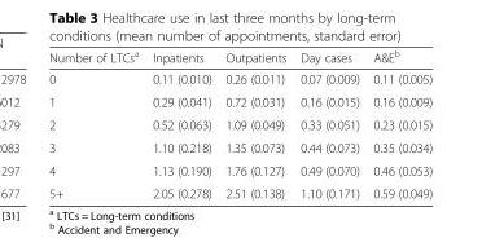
<table><thead><tr><td>Number of LTCs<sup>a</sup></td><td>Inpatients</td><td>Outpatients</td><td>Day cases</td><td>A&amp;E<sup>b</sup></td></tr></thead><tbody><tr><td>0</td><td>0.11 (0.010)</td><td>0.26 (0.011)</td><td>0.07 (0.009)</td><td>0.11 (0.005)</td></tr><tr><td>1</td><td>0.29 (0.041)</td><td>0.72 (0.031)</td><td>0.16 (0.015)</td><td>0.16 (0.009)</td></tr><tr><td>2</td><td>0.52 (0.063)</td><td>1.09 (0.049)</td><td>0.33 (0.051)</td><td>0.23 (0.015)</td></tr><tr><td>3</td><td>1.10 (0.218)</td><td>1.35 (0.073)</td><td>0.44 (0.073)</td><td>0.35 (0.034)</td></tr><tr><td>4</td><td>1.13 (0.190)</td><td>1.76 (0.127)</td><td>0.49 (0.070)</td><td>0.46 (0.053)</td></tr><tr><td>5+</td><td>2.05 (0.278)</td><td>2.51 (0.138)</td><td>1.10 (0.171)</td><td>0.59 (0.049)</td></tr></tbody></table>